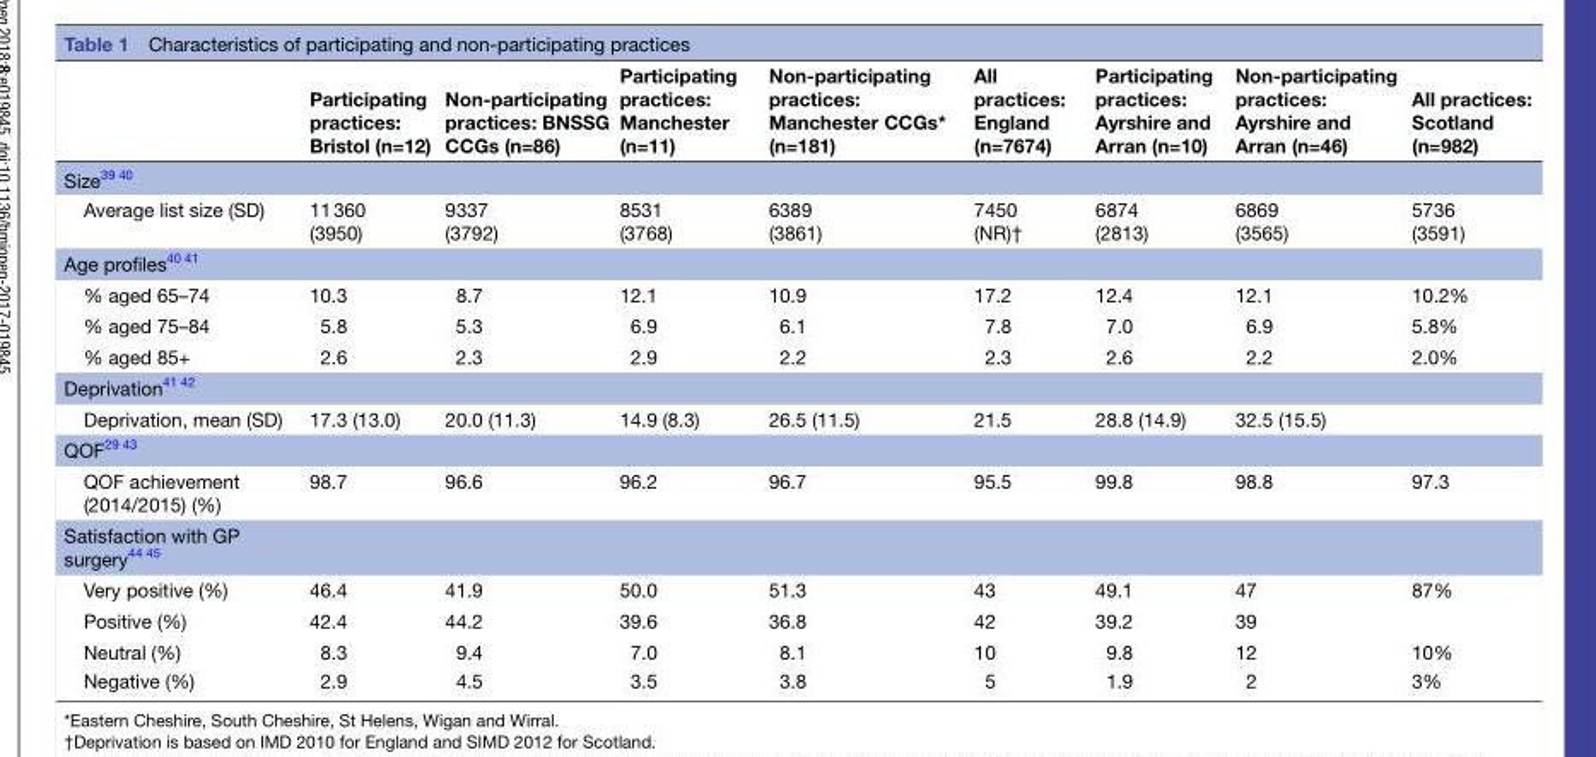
<table><thead><tr><td></td><td>Participating practices: Bristol (n=12)</td><td>Non-participating practices: BNSSG CCGs (n=86)</td><td>Participating practices: Manchester (n=11)</td><td>Non-participating practices: Manchester CCGs* (n=181)</td><td>All practices: England (n=7674)</td><td>Participating practices: Ayrshire and Arran (n=10)</td><td>Non-participating practices: Ayrshire and Arran (n=46)</td><td>All practices: Scotland (n=982)</td></tr></thead><tbody><tr><td colspan="9">Size<sup>39 40</sup></td></tr><tr><td>Average list size (SD)</td><td>11 360 (3950)</td><td>9337 (3792)</td><td>8531 (3768)</td><td>6389 (3861)</td><td>7450 (NR)†</td><td>6874 (2813)</td><td>6869 (3565)</td><td>5736 (3591)</td></tr><tr><td colspan="9">Age profiles<sup>40 41</sup></td></tr><tr><td>% aged 65–74</td><td>10.3</td><td>8.7</td><td>12.1</td><td>10.9</td><td>17.2</td><td>12.4</td><td>12.1</td><td>10.2%</td></tr><tr><td>% aged 75–84</td><td>5.8</td><td>5.3</td><td>6.9</td><td>6.1</td><td>7.8</td><td>7.0</td><td>6.9</td><td>5.8%</td></tr><tr><td>% aged 85+</td><td>2.6</td><td>2.3</td><td>2.9</td><td>2.2</td><td>2.3</td><td>2.6</td><td>2.2</td><td>2.0%</td></tr><tr><td colspan="9">Deprivation<sup>41 42</sup></td></tr><tr><td>Deprivation, mean (SD)</td><td>17.3 (13.0)</td><td>20.0 (11.3)</td><td>14.9 (8.3)</td><td>26.5 (11.5)</td><td>21.5</td><td>28.8 (14.9)</td><td>32.5 (15.5)</td><td></td></tr><tr><td colspan="9">QOF<sup>29 43</sup></td></tr><tr><td>QOF achievement (2014/2015) (%)</td><td>98.7</td><td>96.6</td><td>96.2</td><td>96.7</td><td>95.5</td><td>99.8</td><td>98.8</td><td>97.3</td></tr><tr><td colspan="9">Satisfaction with GP surgery<sup>44 45</sup></td></tr><tr><td>Very positive (%)</td><td>46.4</td><td>41.9</td><td>50.0</td><td>51.3</td><td>43</td><td>49.1</td><td>47</td><td rowspan="2">87%</td></tr><tr><td>Positive (%)</td><td>42.4</td><td>44.2</td><td>39.6</td><td>36.8</td><td>42</td><td>39.2</td><td>39</td></tr><tr><td>Neutral (%)</td><td>8.3</td><td>9.4</td><td>7.0</td><td>8.1</td><td>10</td><td>9.8</td><td>12</td><td>10%</td></tr><tr><td>Negative (%)</td><td>2.9</td><td>4.5</td><td>3.5</td><td>3.8</td><td>5</td><td>1.9</td><td>2</td><td>3%</td></tr></tbody></table>